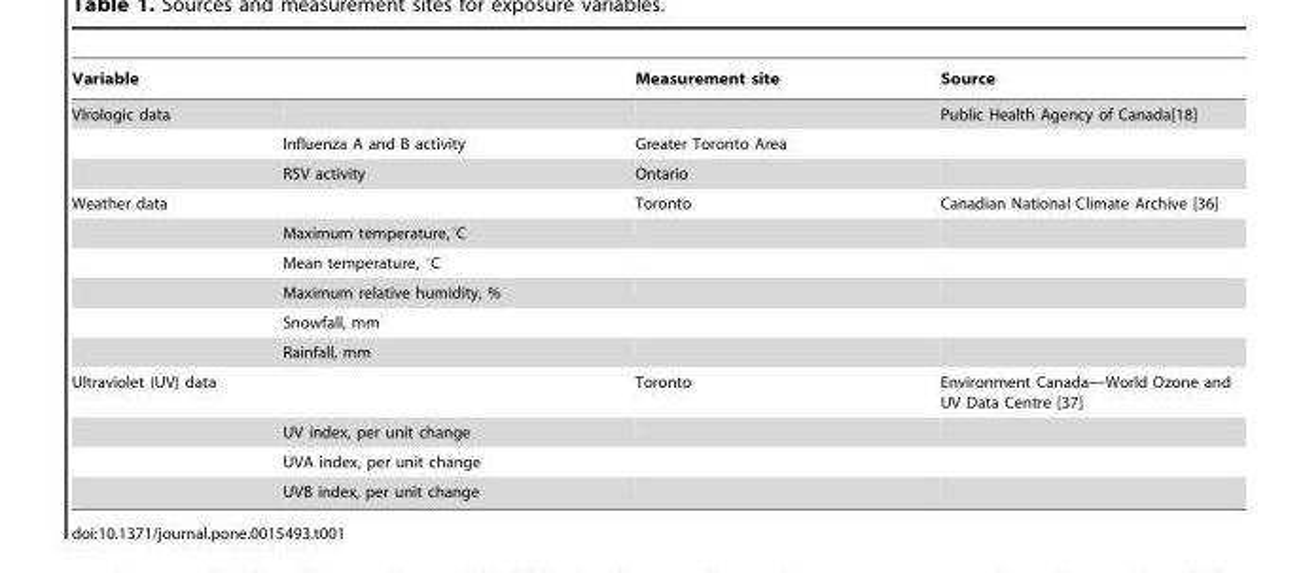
<table><thead><tr><td colspan="2">Variable</td><td rowspan="2">Measurement site</td><td rowspan="2">Source Public Health Agency of Canada[18]</td></tr><tr><td>VIrologic data</td><td></td></tr></thead><tbody><tr><td></td><td>Influenza A and B activity</td><td>Greater Toronto Area</td><td></td></tr><tr><td></td><td>RSV activity</td><td>Ontario</td><td></td></tr><tr><td rowspan="6">Weather data</td><td></td><td>Toronto</td><td>Canadian National Climate Archive [36]</td></tr><tr><td>Maximum temperature,°C</td><td></td><td></td></tr><tr><td>Mean temperature, °C</td><td></td><td></td></tr><tr><td>Maximum relative humidity, %</td><td></td><td></td></tr><tr><td>Snowfall, mm</td><td></td><td></td></tr><tr><td>Rainfall, mm</td><td></td><td></td></tr><tr><td rowspan="4">Ultraviolet (UV) data</td><td></td><td>Toronto</td><td>Environment Canada—World Ozone and UV Data Centre [37]</td></tr><tr><td>UV index, per unit change</td><td></td><td></td></tr><tr><td>UVA index, per unit change</td><td></td><td></td></tr><tr><td>UVB index, per unit change</td><td></td><td></td></tr></tbody></table>